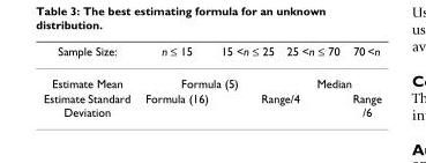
<table><thead><tr><td>Sample Size:</td><td>n ≤ 15</td><td>15 &lt;n ≤ 25</td><td>25 &lt;n ≤ 70</td><td>70 &lt;n</td></tr></thead><tbody><tr><td>Estimate Mean</td><td colspan="2">Formula (5)</td><td colspan="2">Median</td></tr><tr><td>Estimate Standard Deviation</td><td>Formula (16)</td><td colspan="2">Range/4</td><td>Range /6</td></tr></tbody></table>